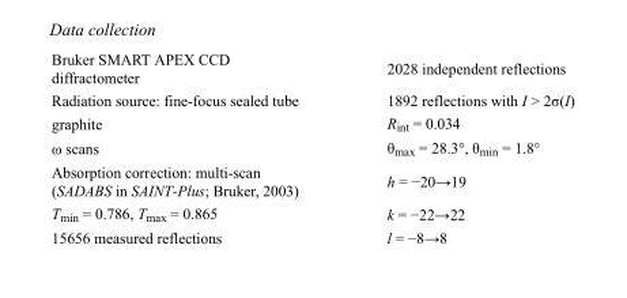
<table><tbody><tr><td>Bruker SMART APEX CCD diffractometer</td><td>2028 independent reflections</td></tr><tr><td>Radiation source: fine-focus sealed tube</td><td>1892 reflections with I &gt; 2σ(I)</td></tr><tr><td>graphite</td><td>R<sub>int</sub> = 0.034</td></tr><tr><td>ω scans</td><td>θ<sub>max</sub> = 28.3°, θ<sub>min</sub> = 1.8°</td></tr><tr><td>Absorption correction: multi-scan (SADABS in SAINT-Plus; Bruker, 2003)</td><td>h = −20→19</td></tr><tr><td>T<sub>min</sub> = 0.786, T<sub>max</sub> = 0.865</td><td>k = −22→22</td></tr><tr><td>15656 measured reflections</td><td>l = −8→8</td></tr></tbody></table>